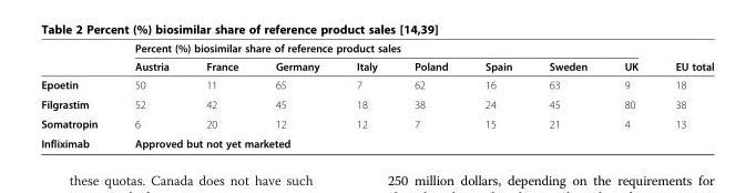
<table><thead><tr><td rowspan="2"></td><td colspan="8">Percent (%) biosimilar share of reference product sales</td><td rowspan="2">EU total</td></tr><tr><td>Austria</td><td>France</td><td>Germany</td><td>Italy</td><td>Poland</td><td>Spain</td><td>Sweden</td><td>UK</td></tr></thead><tbody><tr><td>Epoetin</td><td>50</td><td>11</td><td>65</td><td>7</td><td>62</td><td>16</td><td>63</td><td>9</td><td>18</td></tr><tr><td>Filgrastim</td><td>52</td><td>42</td><td>45</td><td>18</td><td>38</td><td>24</td><td>45</td><td>80</td><td>38</td></tr><tr><td>Somatropin</td><td>6</td><td>20</td><td>12</td><td>12</td><td>7</td><td>15</td><td>21</td><td>4</td><td>13</td></tr><tr><td>Infliximab</td><td colspan="8">Approved but not yet marketed</td><td></td></tr></tbody></table>